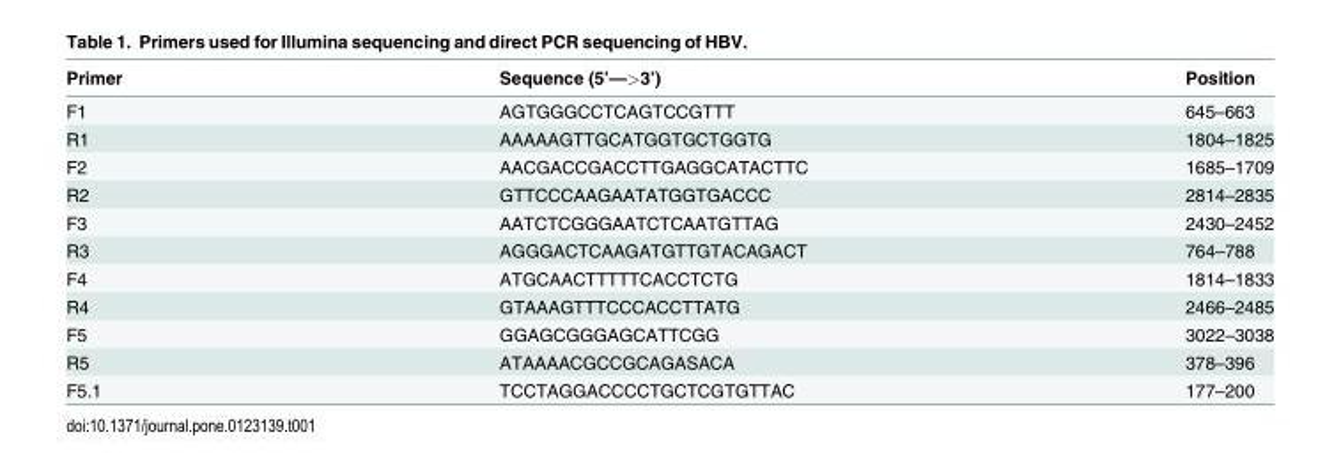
<table><thead><tr><td>Primer</td><td>Sequence (5’—&gt;3’)</td><td>Position</td></tr></thead><tbody><tr><td>F1</td><td>AGTGGGCCTCAGTCCGTTT</td><td>645–663</td></tr><tr><td>R1</td><td>AAAAAGTTGCATGGTGCTGGTG</td><td>1804–1825</td></tr><tr><td>F2</td><td>AACGACCGACCTTGAGGCATACTTC</td><td>1685–1709</td></tr><tr><td>R2</td><td>GTTCCCAAGAATATGGTGACCC</td><td>2814–2835</td></tr><tr><td>F3</td><td>AATCTCGGGAATCTCAATGTTAG</td><td>2430–2452</td></tr><tr><td>R3</td><td>AGGGACTCAAGATGTTGTACAGACT</td><td>764–788</td></tr><tr><td>F4</td><td>ATGCAACTTTTTCACCTCTG</td><td>1814–1833</td></tr><tr><td>R4</td><td>GTAAAGTTTCCCACCTTATG</td><td>2466–2485</td></tr><tr><td>F5</td><td>GGAGCGGGAGCATTCGG</td><td>3022–3038</td></tr><tr><td>R5</td><td>ATAAAACGCCGCAGASACA</td><td>378–396</td></tr><tr><td>F5.1</td><td>TCCTAGGACCCCTGCTCGTGTTAC</td><td>177–200</td></tr></tbody></table>